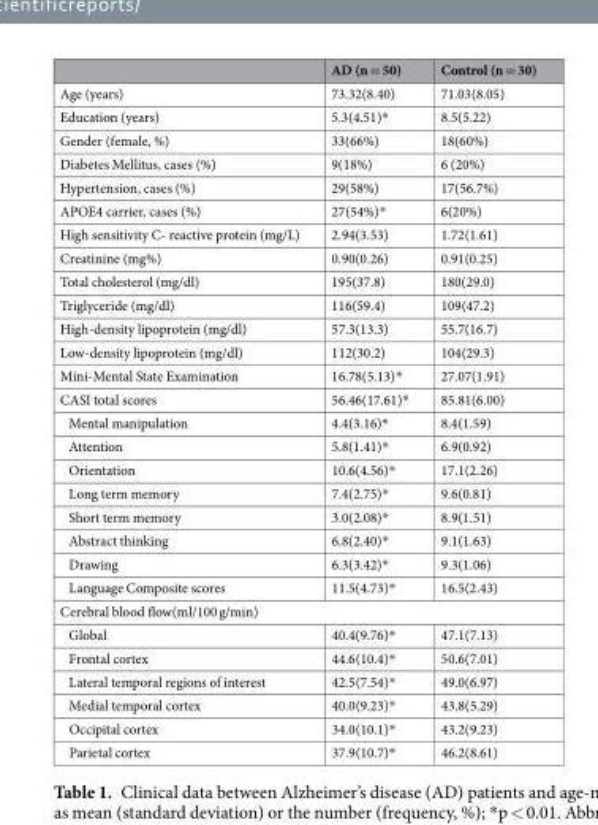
<table><thead><tr><td></td><td>AD (n = 50)</td><td>Control (n = 30)</td></tr></thead><tbody><tr><td>Age (years)</td><td>73.32(8.40)</td><td>71.03(8.05)</td></tr><tr><td>Education (years)</td><td>5.3(4.51)*</td><td>8.5(5.22)</td></tr><tr><td>Gender (female, %)</td><td>33(66%)</td><td>18(60%)</td></tr><tr><td>Diabetes Mellitus, cases (%)</td><td>9(18%)</td><td>6 (20%)</td></tr><tr><td>Hypertension, cases (%)</td><td>29(58%)</td><td>17(56.7%)</td></tr><tr><td>APOE4 carrier, cases (%)</td><td>27(54%)*</td><td>6(20%)</td></tr><tr><td>High sensitivity C- reactive protein (mg/L)</td><td>2.94(3.53)</td><td>1.72(1.61)</td></tr><tr><td>Creatinine (mg%)</td><td>0.90(0.26)</td><td>0.91(0.25)</td></tr><tr><td>Total cholesterol (mg/dl)</td><td>195(37.8)</td><td>180(29.0)</td></tr><tr><td>Triglyceride (mg/dl)</td><td>116(59.4)</td><td>109(47.2)</td></tr><tr><td>High-density lipoprotein (mg/dl)</td><td>57.3(13.3)</td><td>55.7(16.7)</td></tr><tr><td>Low-density lipoprotein (mg/dl)</td><td>112(30.2)</td><td>104(29.3)</td></tr><tr><td>Mini-Mental State Examination</td><td>16.78(5.13)*</td><td>27.07(1.91)</td></tr><tr><td>CASI total scores</td><td>56.46(17.61)*</td><td>85.81(6.00)</td></tr><tr><td>Mental manipulation</td><td>4.4(3.16)*</td><td>8.4(1.59)</td></tr><tr><td>Attention</td><td>5.8(1.41)*</td><td>6.9(0.92)</td></tr><tr><td>Orientation</td><td>10.6(4.56)*</td><td>17.1(2.26)</td></tr><tr><td>Long term memory</td><td>7.4(2.75)*</td><td>9.6(0.81)</td></tr><tr><td>Short term memory</td><td>3.0(2.08)*</td><td>8.9(1.51)</td></tr><tr><td>Abstract thinking</td><td>6.8(2.40)*</td><td>9.1(1.63)</td></tr><tr><td>Drawing</td><td>6.3(3.42)*</td><td>9.3(1.06)</td></tr><tr><td>Language Composite scores</td><td>11.5(4.73)*</td><td>16.5(2.43)</td></tr><tr><td colspan="3">Cerebral blood flow(ml/100 g/min)</td></tr><tr><td>Global</td><td>40.4(9.76)*</td><td>47.1(7.13)</td></tr><tr><td>Frontal cortex</td><td>44.6(10.4)*</td><td>50.6(7.01)</td></tr><tr><td>Lateral temporal regions of interest</td><td>42.5(7.54)*</td><td>49.0(6.97)</td></tr><tr><td>Medial temporal cortex</td><td>40.0(9.23)*</td><td>43.8(5.29)</td></tr><tr><td>Occipital cortex</td><td>34.0(10.1)*</td><td>43.2(9.23)</td></tr><tr><td>Parietal cortex</td><td>37.9(10.7)*</td><td>46.2(8.61)</td></tr></tbody></table>